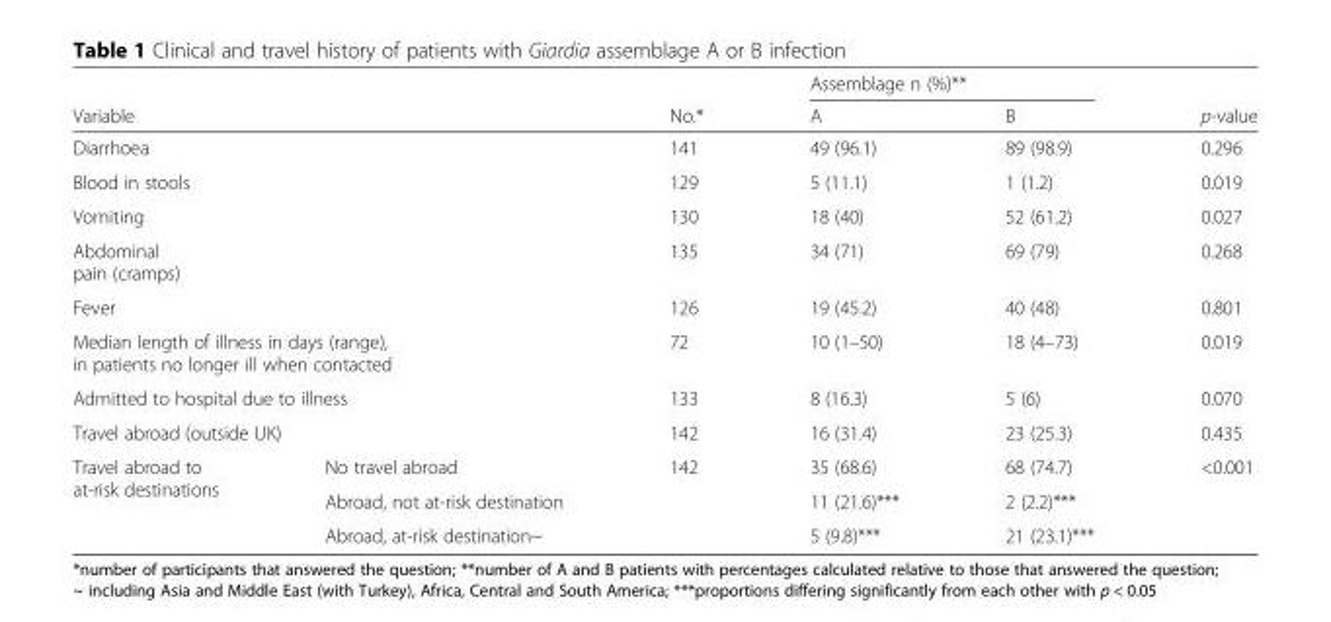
<table><thead><tr><td></td><td></td><td rowspan="2">No.*</td><td colspan="2">Assemblage n (%)**</td><td rowspan="2">p-value</td></tr><tr><td colspan="2">Variable</td><td>A</td><td>B</td></tr></thead><tbody><tr><td colspan="2">Diarrhoea</td><td>141</td><td>49 (96.1)</td><td>89 (98.9)</td><td>0.296</td></tr><tr><td colspan="2">Blood in stools</td><td>129</td><td>5 (11.1)</td><td>1 (1.2)</td><td>0.019</td></tr><tr><td colspan="2">Vomiting</td><td>130</td><td>18 (40)</td><td>52 (61.2)</td><td>0.027</td></tr><tr><td colspan="2">Abdominal pain (cramps)</td><td>135</td><td>34 (71)</td><td>69 (79)</td><td>0.268</td></tr><tr><td colspan="2">Fever</td><td>126</td><td>19 (45.2)</td><td>40 (48)</td><td>0.801</td></tr><tr><td colspan="2">Median length of illness in days (range), in patients no longer ill when contacted</td><td>72</td><td>10 (1–50)</td><td>18 (4–73)</td><td>0.019</td></tr><tr><td colspan="2">Admitted to hospital due to illness</td><td>133</td><td>8 (16.3)</td><td>5 (6)</td><td>0.070</td></tr><tr><td colspan="2">Travel abroad (outside UK)</td><td>142</td><td>16 (31.4)</td><td>23 (25.3)</td><td>0.435</td></tr><tr><td rowspan="3">Travel abroad to at-risk destinations</td><td>No travel abroad</td><td rowspan="3">142</td><td>35 (68.6)</td><td>68 (74.7)</td><td rowspan="3">&lt;0.001</td></tr><tr><td>Abroad, not at-risk destination</td><td>11 (21.6)***</td><td>2 (2.2)***</td></tr><tr><td>Abroad, at-risk destination~</td><td>5 (9.8)***</td><td>21 (23.1)***</td></tr></tbody></table>